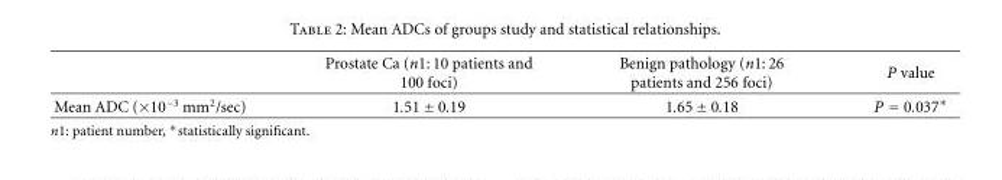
<table><thead><tr><td></td><td>Prostate Ca (n1: 10 patients and 100 foci)</td><td>Benign pathology (n1: 26 patients and 256 foci)</td><td>P value</td></tr></thead><tbody><tr><td>Mean ADC (×10<sup>−3</sup> mm<sup>2</sup>/sec)</td><td>1.51 ± 0.19</td><td>1.65 ± 0.18</td><td>P = 0.037∗</td></tr></tbody></table>